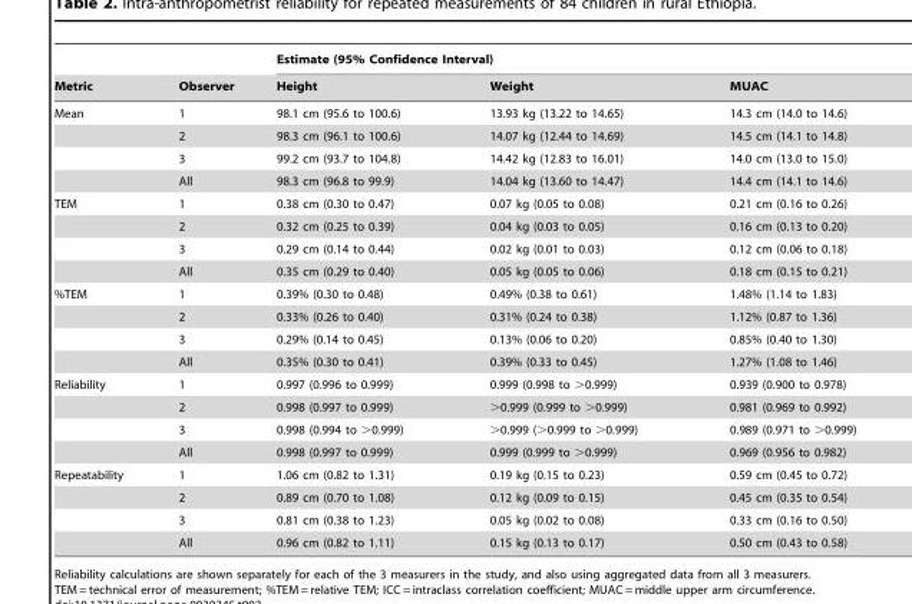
<table><thead><tr><td rowspan="2">Metric</td><td rowspan="2">Observer</td><td colspan="3">Estimate (95% Confidence Interval)</td></tr><tr><td>Height</td><td>Weight</td><td>MUAC</td></tr></thead><tbody><tr><td rowspan="4">Mean</td><td>1</td><td>98.1 cm (95.6 to 100.6)</td><td>13.93 kg (13.22 to 14.65)</td><td>14.3 cm (14.0 to 14.6)</td></tr><tr><td>2</td><td>98.3 cm (96.1 to 100.6)</td><td>14.07 kg (12.44 to 14.69)</td><td>14.5 cm (14.1 to 14.8)</td></tr><tr><td>3</td><td>99.2 cm (93.7 to 104.8)</td><td>14.42 kg (12.83 to 16.01)</td><td>14.0 cm (13.0 to 15.0)</td></tr><tr><td>All</td><td>98.3 cm (96.8 to 99.9)</td><td>14.04 kg (13.60 to 14.47)</td><td>14.4 cm (14.1 to 14.6)</td></tr><tr><td rowspan="4">TEM</td><td>1</td><td>0.38 cm (0.30 to 0.47)</td><td>0.07 kg (0.05 to 0.08)</td><td>0.21 cm (0.16 to 0.26)</td></tr><tr><td>2</td><td>0.32 cm (0.25 to 0.39)</td><td>0.04 kg (0.03 to 0.05)</td><td>0.16 cm (0.13 to 0.20)</td></tr><tr><td>3</td><td>0.29 cm (0.14 to 0.44)</td><td>0.02 kg (0.01 to 0.03)</td><td>0.12 cm (0.06 to 0.18)</td></tr><tr><td>All</td><td>0.35 cm (0.29 to 0.40)</td><td>0.05 kg (0.05 to 0.06)</td><td>0.18 cm (0.15 to 0.21)</td></tr><tr><td rowspan="4">%TEM</td><td>1</td><td>0.39% (0.30 to 0.48)</td><td>0.49% (0.38 to 0.61)</td><td>1.48% (1.14 to 1.83)</td></tr><tr><td>2</td><td>0.33% (0.26 to 0.40)</td><td>0.31% (0.24 to 0.38)</td><td>1.12% (0.87 to 1.36)</td></tr><tr><td>3</td><td>0.29% (0.14 to 0.45)</td><td>0.13% (0.06 to 0.20)</td><td>0.85% (0.40 to 1.30)</td></tr><tr><td>All</td><td>0.35% (0.30 to 0.41)</td><td>0.39% (0.33 to 0.45)</td><td>1.27% (1.08 to 1.46)</td></tr><tr><td rowspan="4">Reliability</td><td>1</td><td>0.997 (0.996 to 0.999)</td><td>0.999 (0.998 to &gt;0.999)</td><td>0.939 (0.900 to 0.978)</td></tr><tr><td>2</td><td>0.998 (0.997 to 0.999)</td><td>&gt;0.999 (0.999 to &gt;0.999)</td><td>0.981 (0.969 to 0.992)</td></tr><tr><td>3</td><td>0.998 (0.994 to &gt;0.999)</td><td>&gt;0.999 (&gt;0.999 to &gt;0.999)</td><td>0.989 (0.971 to &gt;0.999)</td></tr><tr><td>All</td><td>0.998 (0.997 to 0.999)</td><td>0.999 (0.999 to &gt;0.999)</td><td>0.969 (0.956 to 0.982)</td></tr><tr><td rowspan="4">Repeatability</td><td>1</td><td>1.06 cm (0.82 to 1.31)</td><td>0.19 kg (0.15 to 0.23)</td><td>0.59 cm (0.45 to 0.72)</td></tr><tr><td>2</td><td>0.89 cm (0.70 to 1.08)</td><td>0.12 kg (0.09 to 0.15)</td><td>0.45 cm (0.35 to 0.54)</td></tr><tr><td>3</td><td>0.81 cm (0.38 to 1.23)</td><td>0.05 kg (0.02 to 0.08)</td><td>0.33 cm (0.16 to 0.50)</td></tr><tr><td>All</td><td>0.96 cm (0.82 to 1.11)</td><td>0.15 kg (0.13 to 0.17)</td><td>0.50 cm (0.43 to 0.58)</td></tr></tbody></table>